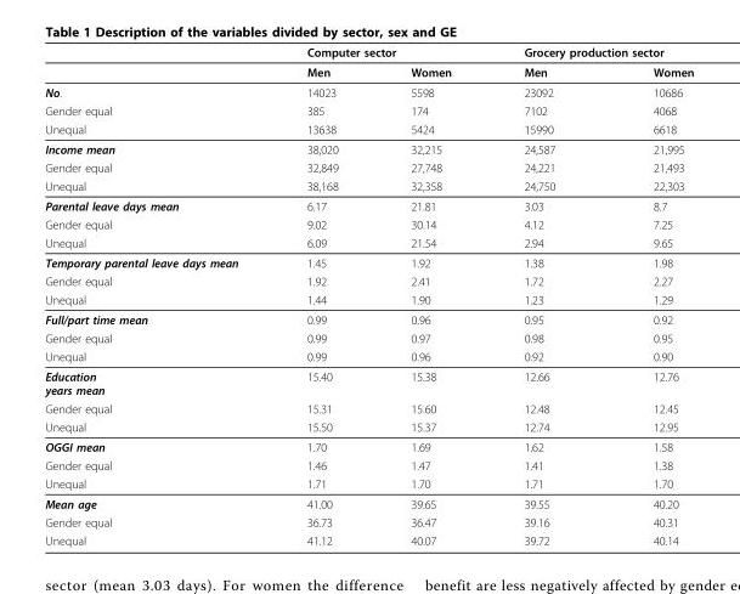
<table><thead><tr><td rowspan="2"></td><td colspan="2">Computer sector</td><td colspan="2">Grocery production sector</td></tr><tr><td>Men</td><td>Women</td><td>Men</td><td>Women</td></tr></thead><tbody><tr><td>No.</td><td>14023</td><td>5598</td><td>23092</td><td>10686</td></tr><tr><td>Gender equal</td><td>385</td><td>174</td><td>7102</td><td>4068</td></tr><tr><td>Unequal</td><td>13638</td><td>5424</td><td>15990</td><td>6618</td></tr><tr><td>Income mean</td><td>38,020</td><td>32,215</td><td>24,587</td><td>21,995</td></tr><tr><td>Gender equal</td><td>32,849</td><td>27,748</td><td>24,221</td><td>21,493</td></tr><tr><td>Unequal</td><td>38,168</td><td>32,358</td><td>24,750</td><td>22,303</td></tr><tr><td>Parental leave days mean</td><td>6.17</td><td>21.81</td><td>3.03</td><td>8.7</td></tr><tr><td>Gender equal</td><td>9.02</td><td>30.14</td><td>4.12</td><td>7.25</td></tr><tr><td>Unequal</td><td>6.09</td><td>21.54</td><td>2.94</td><td>9.65</td></tr><tr><td>Temporary parental leave days mean</td><td>1.45</td><td>1.92</td><td>1.38</td><td>1.98</td></tr><tr><td>Gender equal</td><td>1.92</td><td>2.41</td><td>1.72</td><td>2.27</td></tr><tr><td>Unequal</td><td>1.44</td><td>1.90</td><td>1.23</td><td>1.29</td></tr><tr><td>Full/part time mean</td><td>0.99</td><td>0.96</td><td>0.95</td><td>0.92</td></tr><tr><td>Gender equal</td><td>0.99</td><td>0.97</td><td>0.98</td><td>0.95</td></tr><tr><td>Unequal</td><td>0.99</td><td>0.96</td><td>0.92</td><td>0.90</td></tr><tr><td>Education years mean</td><td>15.40</td><td>15.38</td><td>12.66</td><td>12.76</td></tr><tr><td>Gender equal</td><td>15.31</td><td>15.60</td><td>12.48</td><td>12.45</td></tr><tr><td>Unequal</td><td>15.50</td><td>15.37</td><td>12.74</td><td>12.95</td></tr><tr><td>OGGI mean</td><td>1.70</td><td>1.69</td><td>1.62</td><td>1.58</td></tr><tr><td>Gender equal</td><td>1.46</td><td>1.47</td><td>1.41</td><td>1.38</td></tr><tr><td>Unequal</td><td>1.71</td><td>1.70</td><td>1.71</td><td>1.70</td></tr><tr><td>Mean age</td><td>41.00</td><td>39.65</td><td>39.55</td><td>40.20</td></tr><tr><td>Gender equal</td><td>36.73</td><td>36.47</td><td>39.16</td><td>40.31</td></tr><tr><td>Unequal</td><td>41.12</td><td>40.07</td><td>39.72</td><td>40.14</td></tr></tbody></table>